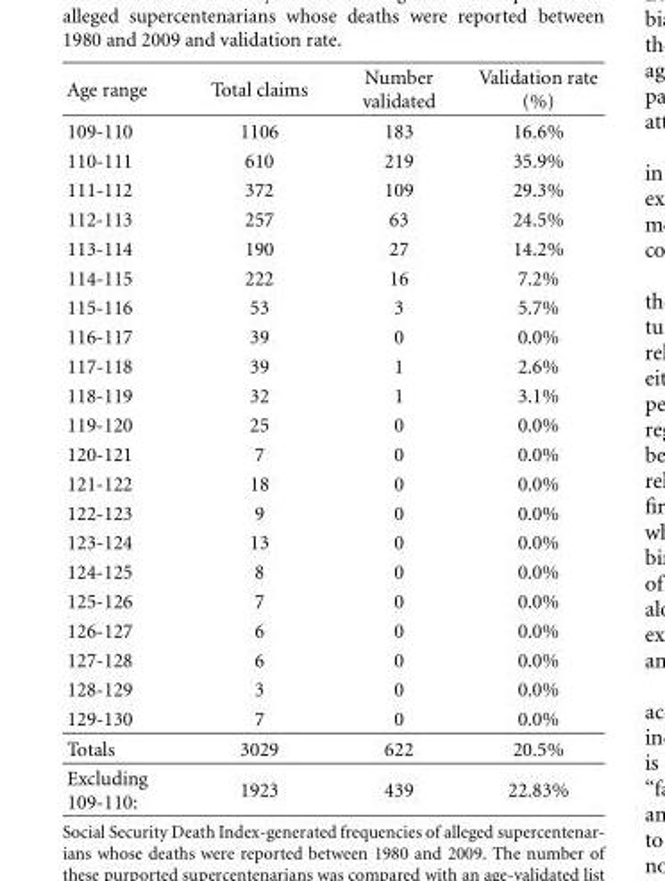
<table><thead><tr><td>Age range</td><td>Total claims</td><td>Number validated</td><td>Validation rate (%)</td></tr></thead><tbody><tr><td>109-110</td><td>1106</td><td>183</td><td>16.6%</td></tr><tr><td>110-111</td><td>610</td><td>219</td><td>35.9%</td></tr><tr><td>111-112</td><td>372</td><td>109</td><td>29.3%</td></tr><tr><td>112-113</td><td>257</td><td>63</td><td>24.5%</td></tr><tr><td>113-114</td><td>190</td><td>27</td><td>14.2%</td></tr><tr><td>114-115</td><td>222</td><td>16</td><td>7.2%</td></tr><tr><td>115-116</td><td>53</td><td>3</td><td>5.7%</td></tr><tr><td>116-117</td><td>39</td><td>0</td><td>0.0%</td></tr><tr><td>117-118</td><td>39</td><td>1</td><td>2.6%</td></tr><tr><td>118-119</td><td>32</td><td>1</td><td>3.1%</td></tr><tr><td>119-120</td><td>25</td><td>0</td><td>0.0%</td></tr><tr><td>120-121</td><td>7</td><td>0</td><td>0.0%</td></tr><tr><td>121-122</td><td>18</td><td>0</td><td>0.0%</td></tr><tr><td>122-123</td><td>9</td><td>0</td><td>0.0%</td></tr><tr><td>123-124</td><td>13</td><td>0</td><td>0.0%</td></tr><tr><td>124-125</td><td>8</td><td>0</td><td>0.0%</td></tr><tr><td>125-126</td><td>7</td><td>0</td><td>0.0%</td></tr><tr><td>126-127</td><td>6</td><td>0</td><td>0.0%</td></tr><tr><td>127-128</td><td>6</td><td>0</td><td>0.0%</td></tr><tr><td>128-129</td><td>3</td><td>0</td><td>0.0%</td></tr><tr><td>129-130</td><td>7</td><td>0</td><td>0.0%</td></tr><tr><td>Totals</td><td>3029</td><td>622</td><td>20.5%</td></tr><tr><td>Excluding 109-110:</td><td>1923</td><td>439</td><td>22.83%</td></tr></tbody></table>